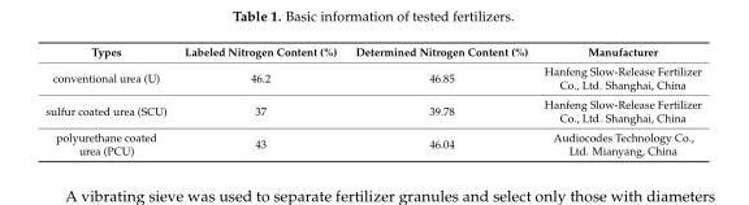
<table><thead><tr><td>Types</td><td>Labeled Nitrogen Content (%)</td><td>Determined Nitrogen Content (%)</td><td>Manufacturer</td></tr></thead><tbody><tr><td>conventional urea (U)</td><td>46.2</td><td>46.85</td><td>Hanfeng Slow-Release Fertilizer Co., Ltd. Shanghai, China</td></tr><tr><td>sulfur coated urea (SCU)</td><td>37</td><td>39.78</td><td>Hanfeng Slow-Release Fertilizer Co., Ltd. Shanghai, China</td></tr><tr><td>polyurethane coated urea (PCU)</td><td>43</td><td>46.04</td><td>Audiocodes Technology Co., Ltd. Mianyang, China</td></tr></tbody></table>